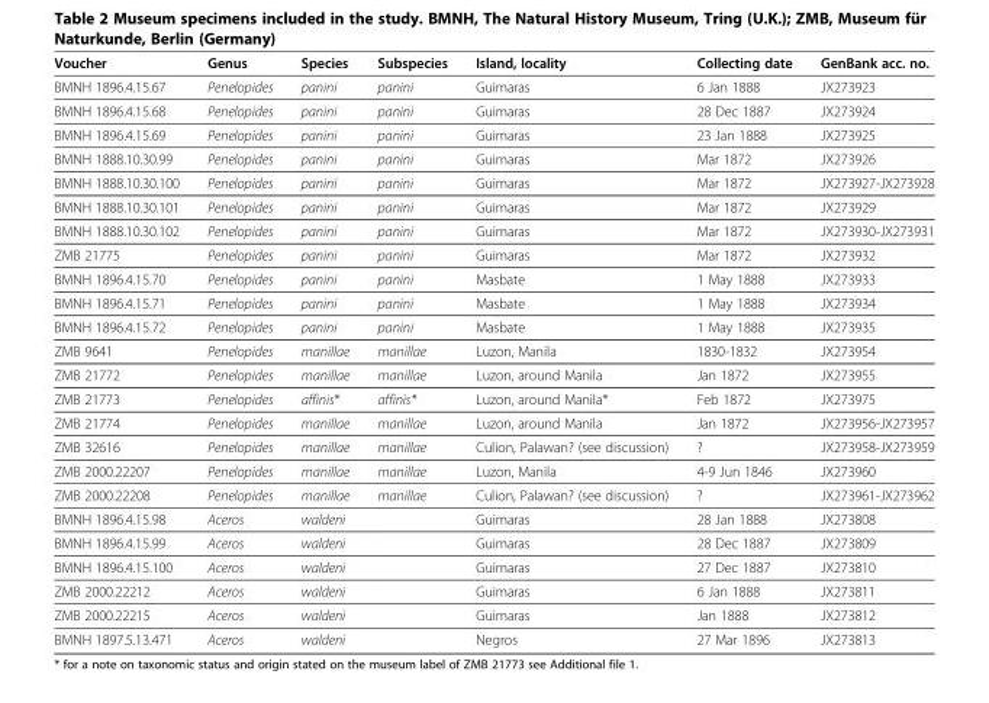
<table><thead><tr><td>Voucher</td><td>Genus</td><td>Species</td><td>Subspecies</td><td>Island, locality</td><td>Collecting date</td><td>GenBank acc. no.</td></tr></thead><tbody><tr><td>BMNH 1896.4.15.67</td><td>Penelopides</td><td>panini</td><td>panini</td><td>Guimaras</td><td>6 Jan 1888</td><td>JX273923</td></tr><tr><td>BMNH 1896.4.15.68</td><td>Penelopides</td><td>panini</td><td>panini</td><td>Guimaras</td><td>28 Dec 1887</td><td>JX273924</td></tr><tr><td>BMNH 1896.4.15.69</td><td>Penelopides</td><td>panini</td><td>panini</td><td>Guimaras</td><td>23 Jan 1888</td><td>JX273925</td></tr><tr><td>BMNH 1888.10.30.99</td><td>Penelopides</td><td>panini</td><td>panini</td><td>Guimaras</td><td>Mar 1872</td><td>JX273926</td></tr><tr><td>BMNH 1888.10.30.100</td><td>Penelopides</td><td>panini</td><td>panini</td><td>Guimaras</td><td>Mar 1872</td><td>JX273927-JX273928</td></tr><tr><td>BMNH 1888.10.30.101</td><td>Penelopides</td><td>panini</td><td>panini</td><td>Guimaras</td><td>Mar 1872</td><td>JX273929</td></tr><tr><td>BMNH 1888.10.30.102</td><td>Penelopides</td><td>panini</td><td>panini</td><td>Guimaras</td><td>Mar 1872</td><td>JX273930-JX273931</td></tr><tr><td>ZMB 21775</td><td>Penelopides</td><td>panini</td><td>panini</td><td>Guimaras</td><td>Mar 1872</td><td>JX273932</td></tr><tr><td>BMNH 1896.4.15.70</td><td>Penelopides</td><td>panini</td><td>panini</td><td>Masbate</td><td>1 May 1888</td><td>JX273933</td></tr><tr><td>BMNH 1896.4.15.71</td><td>Penelopides</td><td>panini</td><td>panini</td><td>Masbate</td><td>1 May 1888</td><td>JX273934</td></tr><tr><td>BMNH 1896.4.15.72</td><td>Penelopides</td><td>panini</td><td>panini</td><td>Masbate</td><td>1 May 1888</td><td>JX273935</td></tr><tr><td>ZMB 9641</td><td>Penelopides</td><td>manillae</td><td>manillae</td><td>Luzon, Manila</td><td>1830-1832</td><td>JX273954</td></tr><tr><td>ZMB 21772</td><td>Penelopides</td><td>manillae</td><td>manillae</td><td>Luzon, around Manila</td><td>Jan 1872</td><td>JX273955</td></tr><tr><td>ZMB 21773</td><td>Penelopides</td><td>affinis*</td><td>affinis*</td><td>Luzon, around Manila*</td><td>Feb 1872</td><td>JX273975</td></tr><tr><td>ZMB 21774</td><td>Penelopides</td><td>manillae</td><td>manillae</td><td>Luzon, around Manila</td><td>Jan 1872</td><td>JX273956-JX273957</td></tr><tr><td>ZMB 32616</td><td>Penelopides</td><td>manillae</td><td>manillae</td><td>Culion, Palawan? (see discussion)</td><td>?</td><td>JX273958-JX273959</td></tr><tr><td>ZMB 2000.22207</td><td>Penelopides</td><td>manillae</td><td>manillae</td><td>Luzon, Manila</td><td>4-9 Jun 1846</td><td>JX273960</td></tr><tr><td>ZMB 2000.22208</td><td>Penelopides</td><td>manillae</td><td>manillae</td><td>Culion, Palawan? (see discussion)</td><td>?</td><td>JX273961-JX273962</td></tr><tr><td>BMNH 1896.4.15.98</td><td>Aceros</td><td>waldeni</td><td></td><td>Guimaras</td><td>28 Jan 1888</td><td>JX273808</td></tr><tr><td>BMNH 1896.4.15.99</td><td>Aceros</td><td>waldeni</td><td></td><td>Guimaras</td><td>28 Dec 1887</td><td>JX273809</td></tr><tr><td>BMNH 1896.4.15.100</td><td>Aceros</td><td>waldeni</td><td></td><td>Guimaras</td><td>27 Dec 1887</td><td>JX273810</td></tr><tr><td>ZMB 2000.22212</td><td>Aceros</td><td>waldeni</td><td></td><td>Guimaras</td><td>6 Jan 1888</td><td>JX273811</td></tr><tr><td>ZMB 2000.22215</td><td>Aceros</td><td>waldeni</td><td></td><td>Guimaras</td><td>Jan 1888</td><td>JX273812</td></tr><tr><td>BMNH 1897.5.13.471</td><td>Aceros</td><td>waldeni</td><td></td><td>Negros</td><td>27 Mar 1896</td><td>JX273813</td></tr></tbody></table>